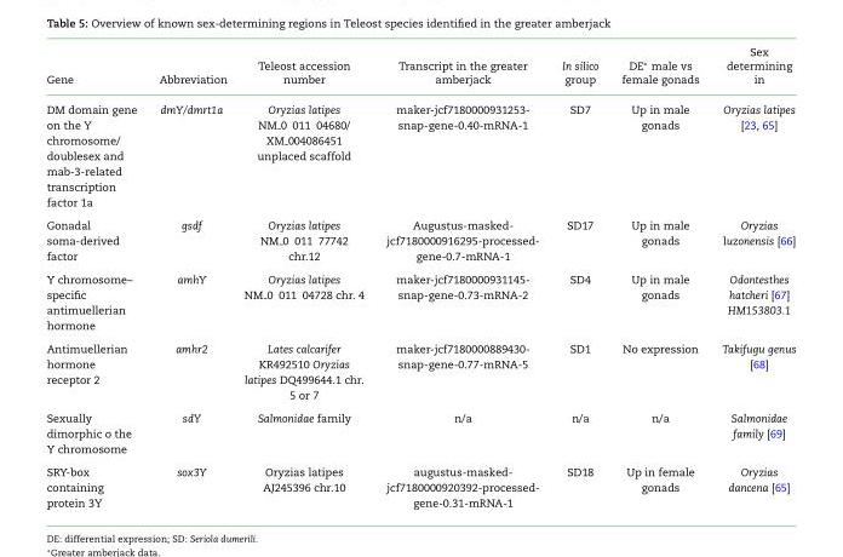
<table><thead><tr><td>Gene</td><td>Abbreviation</td><td>Teleost accession number</td><td>Transcript in the greater amberjack</td><td>In silico group</td><td>DE∗ male vs female gonads</td><td>Sex determining in</td></tr></thead><tbody><tr><td>DM domain gene on the Y chromosome/ doublesex and mab-3-related transcription factor 1a</td><td>dmY/dmrt1a</td><td>Oryzias latipes NM <sub>0 011 04680/ XM</sub> 004086451 unplaced scaffold</td><td>maker-jcf7180000931253- snap-gene-0.40-mRNA-1</td><td>SD7</td><td>Up in male gonads</td><td>Oryzias latipes [23, 65]</td></tr><tr><td>Gonadal soma-derived factor</td><td>gsdf</td><td>Oryzias latipes NM 0 011 77742 chr.12</td><td>Augustus-masked- jcf7180000916295-processed- gene-0.7-mRNA-1</td><td>SD17</td><td>Up in male gonads</td><td>Oryzias luzonensis [66]</td></tr><tr><td>Y chromosome– specific antimuellerian hormone</td><td>amhY</td><td>Oryzias latipes NM 0 011 04728 chr. 4</td><td>maker-jcf7180000931145- snap-gene-0.73-mRNA-2</td><td>SD4</td><td>Up in male gonads</td><td>Odontesthes hatcheri [67] HM153803.1</td></tr><tr><td>Antimuellerian hormone receptor 2</td><td>amhr2</td><td>Lates calcarifer KR492510 Oryzias latipes DQ499644.1 chr. 5 or 7</td><td>maker-jcf7180000889430- snap-gene-0.77-mRNA-5</td><td>SD1</td><td>No expression</td><td>Takifugu genus [68]</td></tr><tr><td>Sexually dimorphic o the Y chromosome</td><td>sdY</td><td>Salmonidae family</td><td>n/a</td><td>n/a</td><td>n/a</td><td>Salmonidae family [69]</td></tr><tr><td>SRY-box containing protein 3Y</td><td>sox3Y</td><td>Oryzias latipes AJ245396 chr.10</td><td>augustus-masked- jcf7180000920392-processed- gene-0.31-mRNA-1</td><td>SD18</td><td>Up in female gonads</td><td>Oryzias dancena [65]</td></tr></tbody></table>